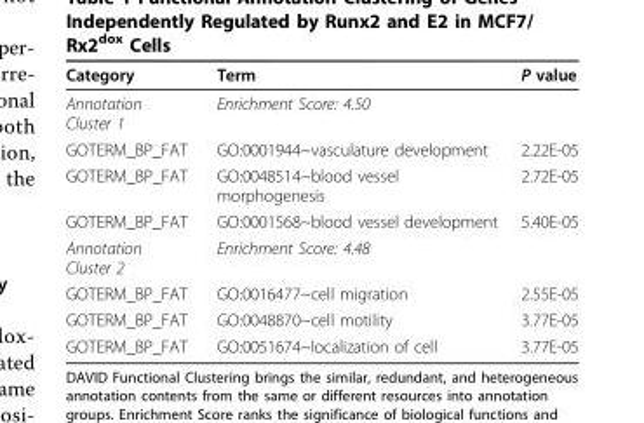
<table><thead><tr><td>Category</td><td>Term</td><td>P value</td></tr></thead><tbody><tr><td>Annotation Cluster 1</td><td>Enrichment Score: 4.50</td><td></td></tr><tr><td>GOTERM_BP_FAT</td><td>GO:0001944~vasculature development</td><td>2.22E-05</td></tr><tr><td>GOTERM_BP_FAT</td><td>GO:0048514~blood vessel morphogenesis</td><td>2.72E-05</td></tr><tr><td>GOTERM_BP_FAT</td><td>GO:0001568~blood vessel development</td><td>5.40E-05</td></tr><tr><td>Annotation Cluster 2</td><td>Enrichment Score: 4.48</td><td></td></tr><tr><td>GOTERM_BP_FAT</td><td>GO:0016477~cell migration</td><td>2.55E-05</td></tr><tr><td>GOTERM_BP_FAT</td><td>GO:0048870~cell motility</td><td>3.77E-05</td></tr><tr><td>GOTERM_BP_FAT</td><td>GO:0051674~localization of cell</td><td>3.77E-05</td></tr></tbody></table>